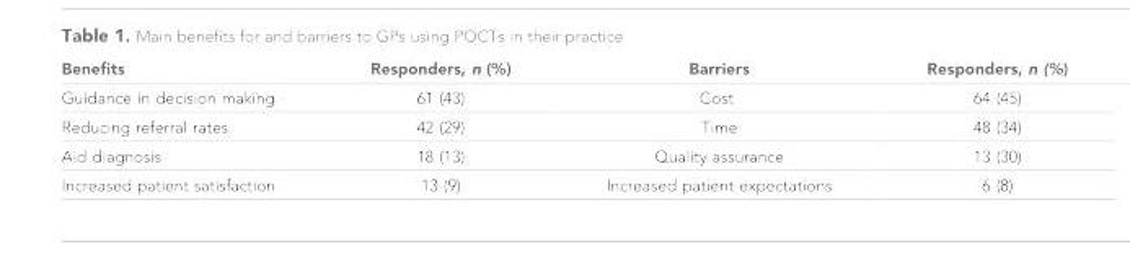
<table><thead><tr><td>Benefits</td><td>Responders, n (%)</td><td>Barriers</td><td>Responders, n (%)</td></tr></thead><tbody><tr><td>Guidance in decision making</td><td>61 (43)</td><td>Cost</td><td>64 (45)</td></tr><tr><td>Reducing referral rates</td><td>42 (29)</td><td>Time</td><td>48 (34)</td></tr><tr><td>Aid diagnosis</td><td>18 (13)</td><td>Quality assurance</td><td>13 (30)</td></tr><tr><td>Increased patient satisfaction</td><td>13 (9)</td><td>Increased patient expectations</td><td>6 (8)</td></tr></tbody></table>